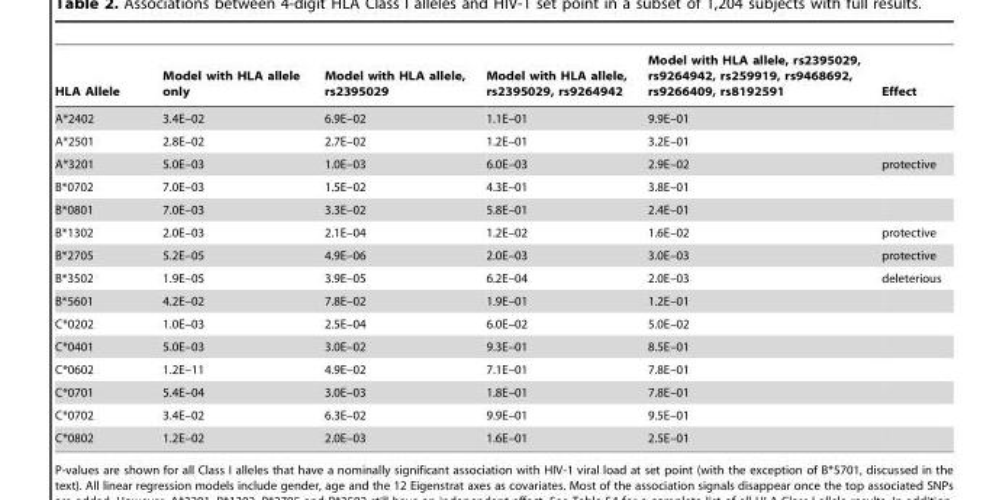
<table><thead><tr><td>HLA Allele</td><td>Model with HLA allele only</td><td>Model with HLA allele, rs2395029</td><td>Model with HLA allele, rs2395029, rs9264942</td><td>Model with HLA allele, rs2395029, rs9264942, rs259919, rs9468692, rs9266409, rs8192591</td><td>Effect</td></tr></thead><tbody><tr><td>A*2402</td><td>3.4E–02</td><td>6.9E–02</td><td>1.1E–01</td><td>9.9E–01</td><td></td></tr><tr><td>A*2501</td><td>2.8E–02</td><td>2.7E–02</td><td>1.2E–01</td><td>3.2E–01</td><td></td></tr><tr><td>A*3201</td><td>5.0E–03</td><td>1.0E–03</td><td>6.0E–03</td><td>2.9E–02</td><td>protective</td></tr><tr><td>B*0702</td><td>7.0E–03</td><td>1.5E–02</td><td>4.3E–01</td><td>3.8E–01</td><td></td></tr><tr><td>B*0801</td><td>7.0E–03</td><td>3.3E–02</td><td>5.8E–01</td><td>2.4E–01</td><td></td></tr><tr><td>B*1302</td><td>2.0E–03</td><td>2.1E–04</td><td>1.2E–02</td><td>1.6E–02</td><td>protective</td></tr><tr><td>B*2705</td><td>5.2E–05</td><td>4.9E–06</td><td>2.0E–03</td><td>3.0E–03</td><td>protective</td></tr><tr><td>B*3502</td><td>1.9E–05</td><td>3.9E–05</td><td>6.2E–04</td><td>2.0E–03</td><td>deleterious</td></tr><tr><td>B*5601</td><td>4.2E–02</td><td>7.8E–02</td><td>1.9E–01</td><td>1.2E–01</td><td></td></tr><tr><td>C*0202</td><td>1.0E–03</td><td>2.5E–04</td><td>6.0E–02</td><td>5.0E–02</td><td></td></tr><tr><td>C*0401</td><td>5.0E–03</td><td>3.0E–02</td><td>9.3E–01</td><td>8.5E–01</td><td></td></tr><tr><td>C*0602</td><td>1.2E–11</td><td>4.9E–02</td><td>7.1E–01</td><td>7.8E–01</td><td></td></tr><tr><td>C*0701</td><td>5.4E–04</td><td>3.0E–03</td><td>1.8E–01</td><td>7.8E–01</td><td></td></tr><tr><td>C*0702</td><td>3.4E–02</td><td>6.3E–02</td><td>9.9E–01</td><td>9.5E–01</td><td></td></tr><tr><td>C*0802</td><td>1.2E–02</td><td>2.0E–03</td><td>1.6E–01</td><td>2.5E–01</td><td></td></tr></tbody></table>